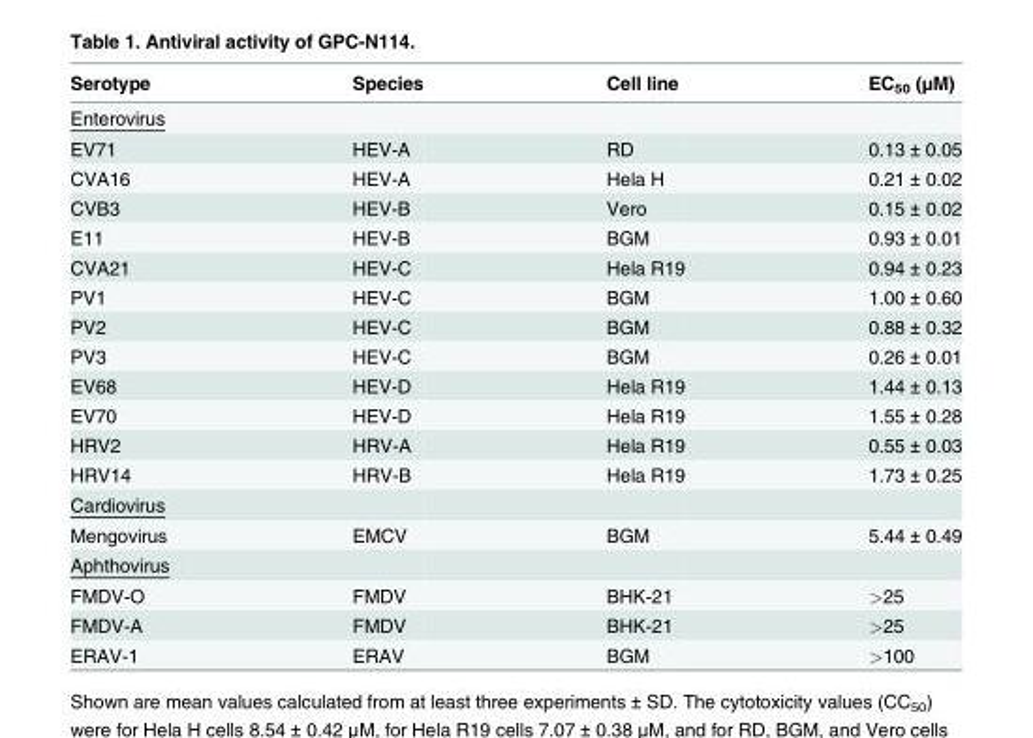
<table><thead><tr><td>Serotype</td><td>Species</td><td>Cell line</td><td>EC<sub>50</sub> (μM)</td></tr></thead><tbody><tr><td colspan="4">Enterovirus</td></tr><tr><td>EV71</td><td>HEV-A</td><td>RD</td><td>0.13 ± 0.05</td></tr><tr><td>CVA16</td><td>HEV-A</td><td>Hela H</td><td>0.21 ± 0.02</td></tr><tr><td>CVB3</td><td>HEV-B</td><td>Vero</td><td>0.15 ± 0.02</td></tr><tr><td>E11</td><td>HEV-B</td><td>BGM</td><td>0.93 ± 0.01</td></tr><tr><td>CVA21</td><td>HEV-C</td><td>Hela R19</td><td>0.94 ± 0.23</td></tr><tr><td>PV1</td><td>HEV-C</td><td>BGM</td><td>1.00 ± 0.60</td></tr><tr><td>PV2</td><td>HEV-C</td><td>BGM</td><td>0.88 ± 0.32</td></tr><tr><td>PV3</td><td>HEV-C</td><td>BGM</td><td>0.26 ± 0.01</td></tr><tr><td>EV68</td><td>HEV-D</td><td>Hela R19</td><td>1.44 ± 0.13</td></tr><tr><td>EV70</td><td>HEV-D</td><td>Hela R19</td><td>1.55 ± 0.28</td></tr><tr><td>HRV2</td><td>HRV-A</td><td>Hela R19</td><td>0.55 ± 0.03</td></tr><tr><td>HRV14</td><td>HRV-B</td><td>Hela R19</td><td>1.73 ± 0.25</td></tr><tr><td colspan="4">Cardiovirus</td></tr><tr><td>Mengovirus</td><td>EMCV</td><td>BGM</td><td>5.44 ± 0.49</td></tr><tr><td colspan="4">Aphthovirus</td></tr><tr><td>FMDV-O</td><td>FMDV</td><td>BHK-21</td><td>&gt;25</td></tr><tr><td>FMDV-A</td><td>FMDV</td><td>BHK-21</td><td>&gt;25</td></tr><tr><td>ERAV-1</td><td>ERAV</td><td>BGM</td><td>&gt;100</td></tr></tbody></table>